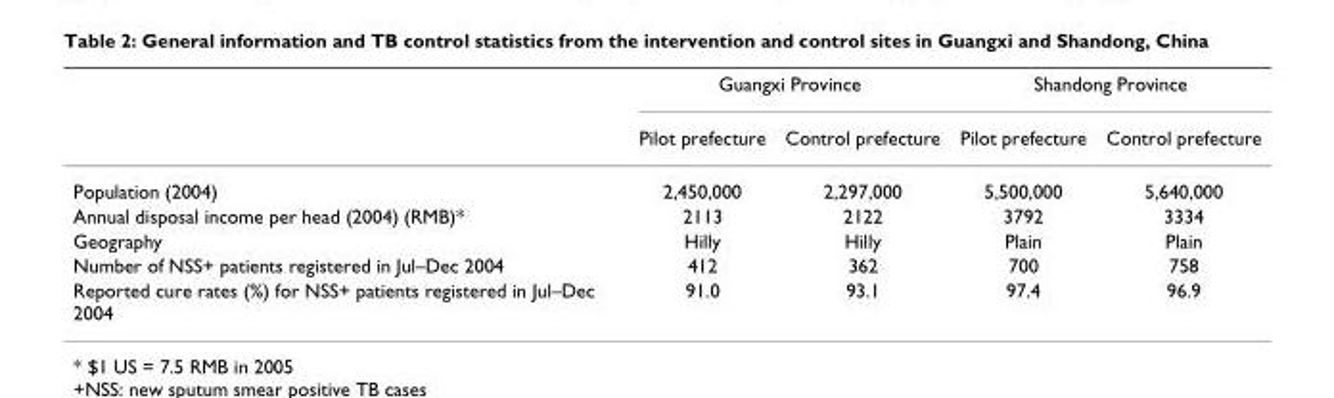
<table><thead><tr><td rowspan="2"></td><td colspan="2">Guangxi Province</td><td colspan="2">Shandong Province</td></tr><tr><td>Pilot prefecture</td><td>Control prefecture</td><td>Pilot prefecture</td><td>Control prefecture</td></tr></thead><tbody><tr><td>Population (2004)</td><td>2,450,000</td><td>2,297,000</td><td>5,500,000</td><td>5,640,000</td></tr><tr><td>Annual disposal income per head (2004) (RMB)*</td><td>2113</td><td>2122</td><td>3792</td><td>3334</td></tr><tr><td>Geography</td><td>Hilly</td><td>Hilly</td><td>Plain</td><td>Plain</td></tr><tr><td>Number of NSS+ patients registered in Jul–Dec 2004</td><td>412</td><td>362</td><td>700</td><td>758</td></tr><tr><td>Reported cure rates (%) for NSS+ patients registered in Jul–Dec 2004</td><td>91.0</td><td>93.1</td><td>97.4</td><td>96.9</td></tr></tbody></table>